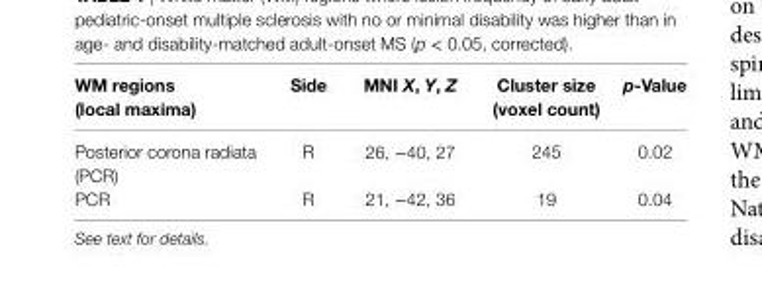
<table><thead><tr><td>WM regions (local maxima)</td><td>side</td><td>Mni X, Y, Z</td><td>cluster size (voxel count)</td><td>p-Value</td></tr></thead><tbody><tr><td>Posterior corona radiata (PCR)</td><td>R</td><td>26, −40, 27</td><td>245</td><td>0.02</td></tr><tr><td>PCR</td><td>R</td><td>21, −42, 36</td><td>19</td><td>0.04</td></tr></tbody></table>